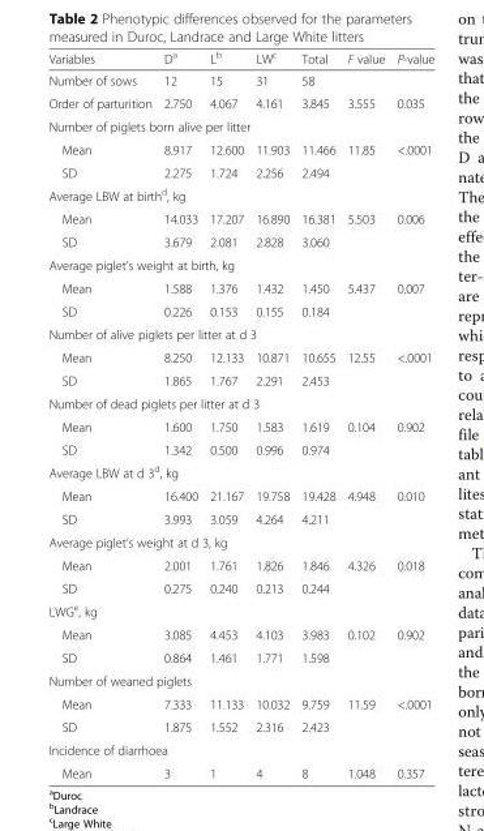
<table><thead><tr><td>Variables</td><td>D<sup>a</sup></td><td>L<sup>b</sup></td><td>LW<sup>c</sup></td><td>Total</td><td>F value</td><td>P-value</td></tr></thead><tbody><tr><td>Number of sows</td><td>12</td><td>15</td><td>31</td><td>58</td><td></td><td></td></tr><tr><td>Order of parturition</td><td>2.750</td><td>4.067</td><td>4.161</td><td>3.845</td><td>3.555</td><td>0.035</td></tr><tr><td colspan="7">Number of piglets born alive per litter</td></tr><tr><td>Mean</td><td>8.917</td><td>12.600</td><td>11.903</td><td>11.466</td><td>11.85</td><td>&lt;.0001</td></tr><tr><td>SD</td><td>2.275</td><td>1.724</td><td>2.256</td><td>2.494</td><td></td><td></td></tr><tr><td colspan="7">Average LBW at birth<sup>d</sup>, kg</td></tr><tr><td>Mean</td><td>14.033</td><td>17.207</td><td>16.890</td><td>16.381</td><td>5.503</td><td>0.006</td></tr><tr><td>SD</td><td>3.679</td><td>2.081</td><td>2.828</td><td>3.060</td><td></td><td></td></tr><tr><td colspan="7">Average piglet’s weight at birth, kg</td></tr><tr><td>Mean</td><td>1.588</td><td>1.376</td><td>1.432</td><td>1.450</td><td>5.437</td><td>0.007</td></tr><tr><td>SD</td><td>0.226</td><td>0.153</td><td>0.155</td><td>0.184</td><td></td><td></td></tr><tr><td colspan="7">Number of alive piglets per litter at d 3</td></tr><tr><td>Mean</td><td>8.250</td><td>12.133</td><td>10.871</td><td>10.655</td><td>12.55</td><td>&lt;.0001</td></tr><tr><td>SD</td><td>1.865</td><td>1.767</td><td>2.291</td><td>2.453</td><td></td><td></td></tr><tr><td colspan="7">Number of dead piglets per litter at d 3</td></tr><tr><td>Mean</td><td>1.600</td><td>1.750</td><td>1.583</td><td>1.619</td><td>0.104</td><td>0.902</td></tr><tr><td>SD</td><td>1.342</td><td>0.500</td><td>0.996</td><td>0.974</td><td></td><td></td></tr><tr><td colspan="7">Average LBW at d 3<sup>d</sup>, kg</td></tr><tr><td>Mean</td><td>16.400</td><td>21.167</td><td>19.758</td><td>19.428</td><td>4.948</td><td>0.010</td></tr><tr><td>SD</td><td>3.993</td><td>3.059</td><td>4.264</td><td>4.211</td><td></td><td></td></tr><tr><td colspan="7">Average piglet’s weight at d 3, kg</td></tr><tr><td>Mean</td><td>2.001</td><td>1.761</td><td>1.826</td><td>1.846</td><td>4.326</td><td>0.018</td></tr><tr><td>SD</td><td>0.275</td><td>0.240</td><td>0.213</td><td>0.244</td><td></td><td></td></tr><tr><td colspan="7">LWG<sup>e</sup>, kg</td></tr><tr><td>Mean</td><td>3.085</td><td>4.453</td><td>4.103</td><td>3.983</td><td>0.102</td><td>0.902</td></tr><tr><td>SD</td><td>0.864</td><td>1.461</td><td>1.771</td><td>1.598</td><td></td><td></td></tr><tr><td colspan="7">Number of weaned piglets</td></tr><tr><td>Mean</td><td>7.333</td><td>11.133</td><td>10.032</td><td>9.759</td><td>11.59</td><td>&lt;.0001</td></tr><tr><td>SD</td><td>1.875</td><td>1.552</td><td>2.316</td><td>2.423</td><td></td><td></td></tr><tr><td colspan="7">Incidence of diarrhoea</td></tr><tr><td>Mean</td><td>3</td><td>1</td><td>4</td><td>8</td><td>1.048</td><td>0.357</td></tr></tbody></table>